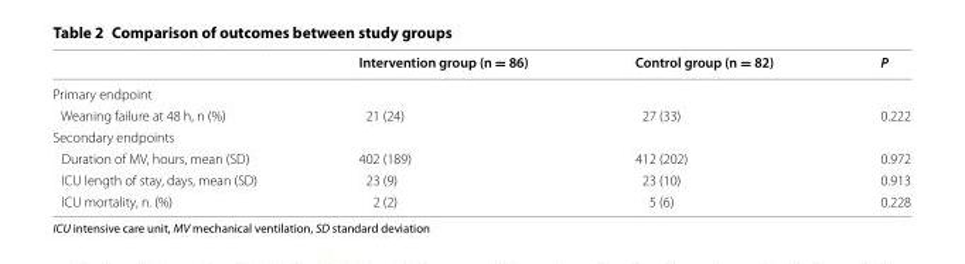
<table><thead><tr><td></td><td>Intervention group (n = 86)</td><td>Control group (n = 82)</td><td>P</td></tr></thead><tbody><tr><td colspan="4">Primary endpoint</td></tr><tr><td>Weaning failure at 48 h, n (%)</td><td>21 (24)</td><td>27 (33)</td><td>0.222</td></tr><tr><td colspan="4">Secondary endpoints</td></tr><tr><td>Duration of MV, hours, mean (SD)</td><td>402 (189)</td><td>412 (202)</td><td>0.972</td></tr><tr><td>ICU length of stay, days, mean (SD)</td><td>23 (9)</td><td>23 (10)</td><td>0.913</td></tr><tr><td>ICU mortality, n. (%)</td><td>2 (2)</td><td>5 (6)</td><td>0.228</td></tr></tbody></table>